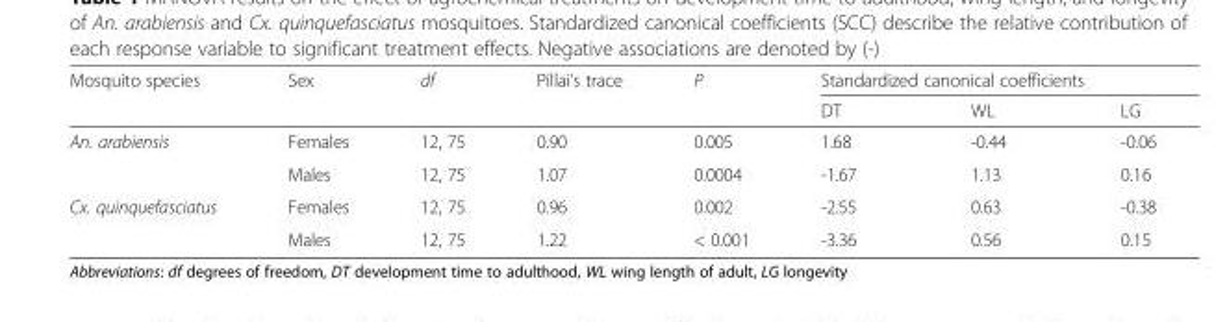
<table><thead><tr><td rowspan="2">Mosquito species</td><td rowspan="2">Sex</td><td rowspan="2">df</td><td rowspan="2">Pillai’s trace</td><td rowspan="2">P</td><td colspan="3">Standardized canonical coefficients</td></tr><tr><td>DT</td><td>WL</td><td>LG</td></tr></thead><tbody><tr><td rowspan="2">An. arabiensis</td><td>Females</td><td>12, 75</td><td>0.90</td><td>0.005</td><td>1.68</td><td>-0.44</td><td>-0.06</td></tr><tr><td>Males</td><td>12, 75</td><td>1.07</td><td>0.0004</td><td>-1.67</td><td>1.13</td><td>0.16</td></tr><tr><td rowspan="2">Cx. quinquefasciatus</td><td>Females</td><td>12, 75</td><td>0.96</td><td>0.002</td><td>-2.55</td><td>0.63</td><td>-0.38</td></tr><tr><td>Males</td><td>12, 75</td><td>1.22</td><td>&lt; 0.001</td><td>-3.36</td><td>0.56</td><td>0.15</td></tr></tbody></table>